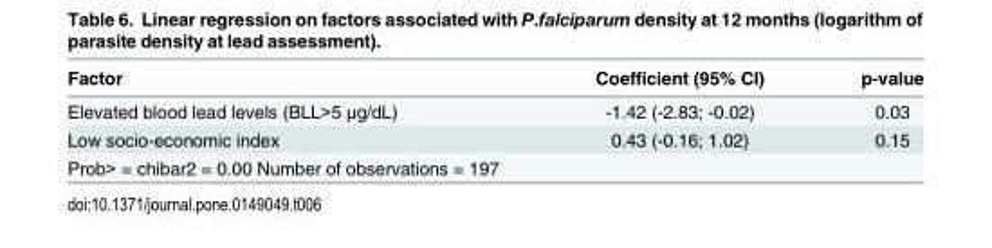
<table><thead><tr><td>Factor</td><td>Coefficient (95% CI)</td><td>p-value</td></tr></thead><tbody><tr><td>Elevated blood lead levels (BLL&gt;5 μg/dL)</td><td>-1.42 (-2.83; -0.02)</td><td>0.03</td></tr><tr><td>Low socio-economic index</td><td>0.43 (-0.16; 1.02)</td><td>0.15</td></tr><tr><td>Prob&gt; = chibar2 = 0.00 Number of observations = 197</td><td></td><td></td></tr></tbody></table>